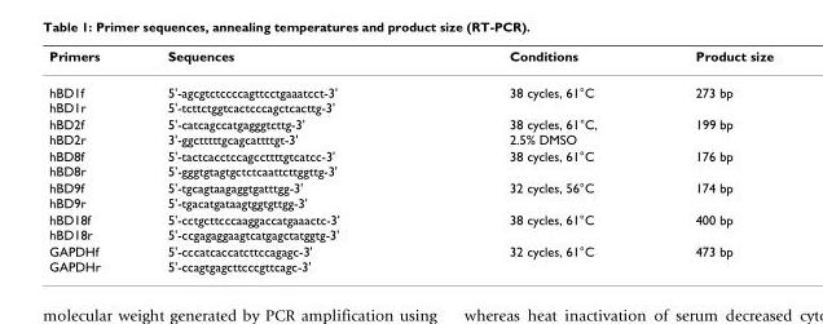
<table><thead><tr><td>Primers</td><td>Sequences</td><td>Conditions</td><td>Product size</td></tr></thead><tbody><tr><td>hBD1f hBD1r</td><td>5&#x27;-agcgtctccccagttcctgaaatcct-3&#x27; 5&#x27;-tcttctggtcactcccagctcacttg-3&#x27;</td><td>38 cycles, 61°C</td><td>273 bp</td></tr><tr><td>hBD2f hBD2r</td><td>5&#x27;-catcagccatgagggtcttg-3&#x27; 3&#x27;-ggctttttgcagcattttgt-3&#x27;</td><td>38 cycles, 61°C, 2.5% DMSO</td><td>199 bp</td></tr><tr><td>hBD8f hBD8r</td><td>5&#x27;-tactcacctccagccttttgtcatcc-3&#x27; 5&#x27;-gggtgtagtgctctcaattcttggttg-3&#x27;</td><td>38 cycles, 61°C</td><td>176 bp</td></tr><tr><td>hBD9f hBD9r</td><td>5&#x27;-tgcagtaagaggtgatttgg-3&#x27; 5&#x27;-tgacatgataagtggtgttgg-3&#x27;</td><td>32 cycles, 56°C</td><td>174 bp</td></tr><tr><td>hBD18f hBD18r</td><td>5&#x27;-cctgcttcccaaggaccatgaaactc-3&#x27; 5&#x27;-ccgagaggaagtcatgagctatggtg-3&#x27;</td><td>38 cycles, 61°C</td><td>400 bp</td></tr><tr><td>GAPDHf GAPDHr</td><td>5&#x27;-cccatcaccatcttccagagc-3&#x27; 5&#x27;-ccagtgagcttcccgttcagc-3&#x27;</td><td>32 cycles, 61°C</td><td>473 bp</td></tr></tbody></table>